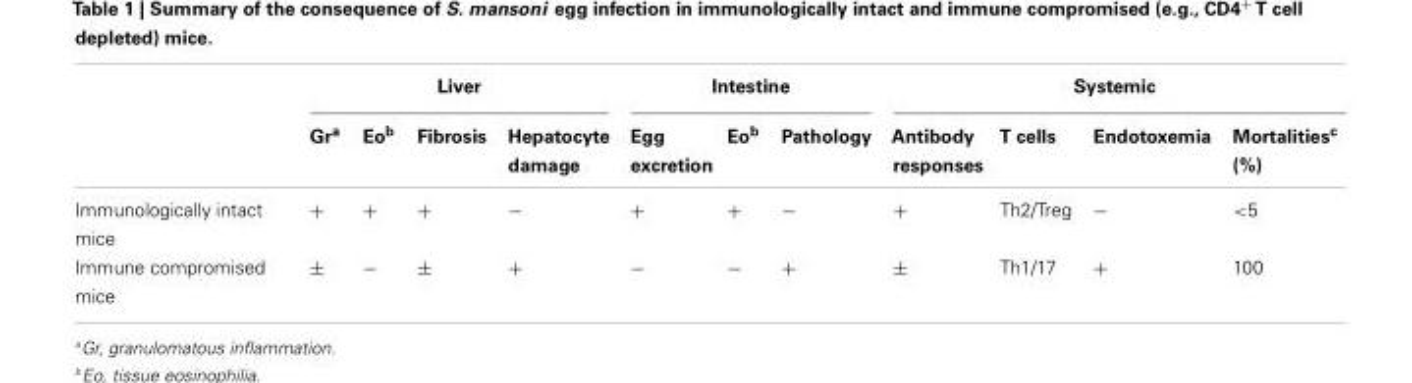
<table><thead><tr><td rowspan="2"></td><td colspan="4">Liver</td><td colspan="3">Intestine</td><td colspan="4">Systemic</td></tr><tr><td>Gr<sup>a</sup></td><td>Eo<sup>b</sup></td><td>Fibrosis</td><td>Hepatocyte damage</td><td>Egg excretion</td><td>Eo<sup>b</sup></td><td>Pathology</td><td>Antibody responses</td><td>T cells</td><td>Endotoxemia</td><td>Mortalities<sup>c</sup> (%)</td></tr></thead><tbody><tr><td>Immunologically intact mice</td><td>+</td><td>+</td><td>+</td><td>−</td><td>+</td><td>+</td><td>−</td><td>+</td><td>Th2/Treg</td><td>−</td><td>&lt;5</td></tr><tr><td>Immune compromised mice</td><td>±</td><td>−</td><td>±</td><td>+</td><td>−</td><td>−</td><td>+</td><td>±</td><td>Th1/17</td><td>+</td><td>100</td></tr></tbody></table>